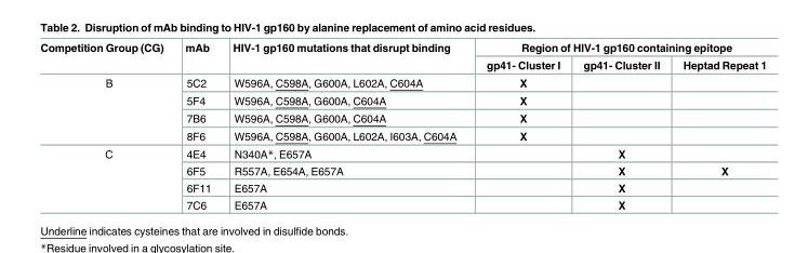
<table><thead><tr><td rowspan="2">Competition Group (CG)</td><td rowspan="2">mAb</td><td rowspan="2">HIV-1 gp160 mutations that disrupt binding</td><td colspan="3">Region of HIV-1 gp160 containing epitope</td></tr><tr><td>gp41- Cluster I</td><td>gp41- Cluster II</td><td>Heptad Repeat 1</td></tr></thead><tbody><tr><td rowspan="4">B</td><td>5C2</td><td>W596A, C598A, G600A, L602A, C604A</td><td>X</td><td></td><td></td></tr><tr><td>5F4</td><td>W596A, C598A, G600A, C604A</td><td>X</td><td></td><td></td></tr><tr><td>7B6</td><td>W596A, C598A, G600A, C604A</td><td>X</td><td></td><td></td></tr><tr><td>8F6</td><td>W596A, C598A, G600A, L602A, I603A, C604A</td><td>X</td><td></td><td></td></tr><tr><td rowspan="4">C</td><td>4E4</td><td>N340A*, E657A</td><td></td><td>X</td><td></td></tr><tr><td>6F5</td><td>R557A, E654A, E657A</td><td></td><td>X</td><td>X</td></tr><tr><td>6F11</td><td>E657A</td><td></td><td>X</td><td></td></tr><tr><td>7C6</td><td>E657A</td><td></td><td>X</td><td></td></tr></tbody></table>